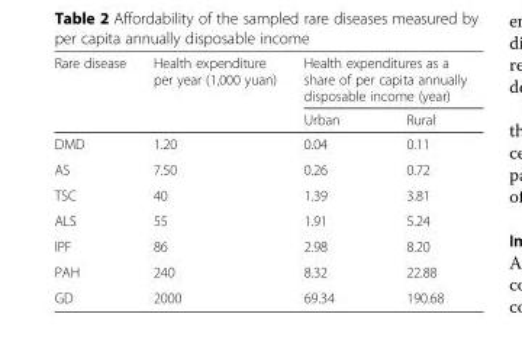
<table><thead><tr><td rowspan="2">Rare disease</td><td rowspan="2">Health expenditure per year (1,000 yuan)</td><td colspan="2">Health expenditures as a share of per capita annually disposable income (year)</td></tr><tr><td>Urban</td><td>Rural</td></tr></thead><tbody><tr><td>DMD</td><td>1.20</td><td>0.04</td><td>0.11</td></tr><tr><td>AS</td><td>7.50</td><td>0.26</td><td>0.72</td></tr><tr><td>TSC</td><td>40</td><td>1.39</td><td>3.81</td></tr><tr><td>ALS</td><td>55</td><td>1.91</td><td>5.24</td></tr><tr><td>IPF</td><td>86</td><td>2.98</td><td>8.20</td></tr><tr><td>PAH</td><td>240</td><td>8.32</td><td>22.88</td></tr><tr><td>GD</td><td>2000</td><td>69.34</td><td>190.68</td></tr></tbody></table>